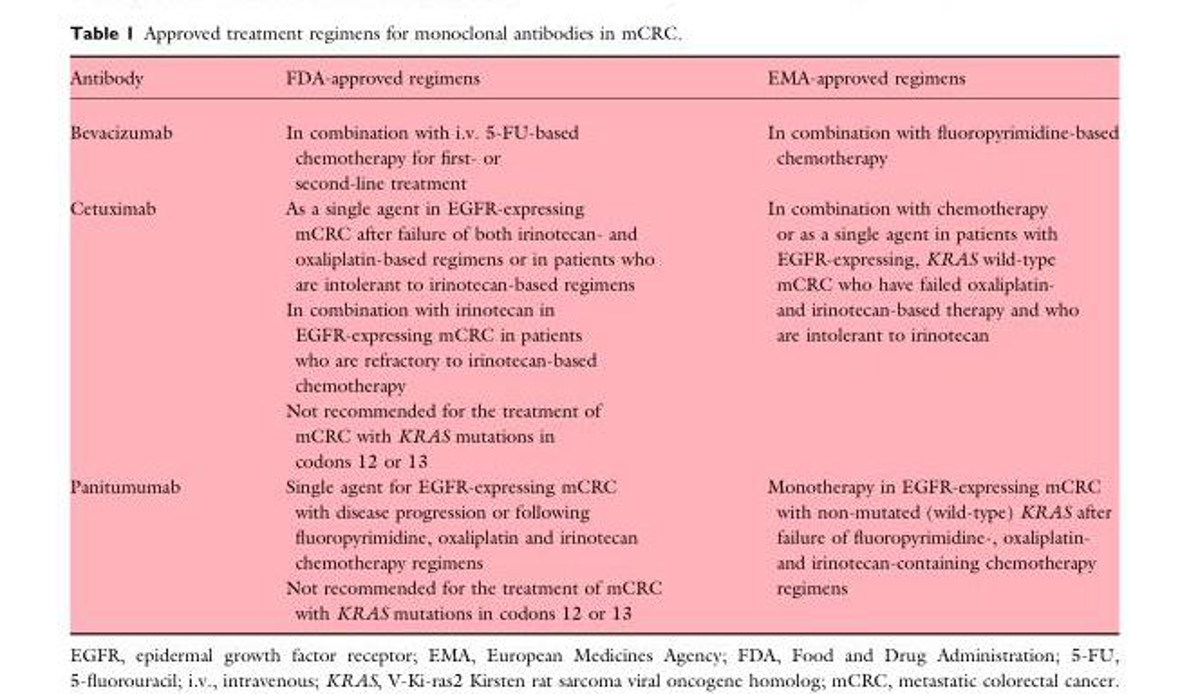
<table><thead><tr><td>Antibody</td><td>FDA-approved regimens</td><td>EMA-approved regimens</td></tr></thead><tbody><tr><td>Bevacizumab</td><td>In combination with i.v. 5-FU-based chemotherapy for first- or second-line treatment</td><td>In combination with fluoropyrimidine-based chemotherapy</td></tr><tr><td>Cetuximab</td><td>As a single agent in EGFR-expressing mCRC after failure of both irinotecan- and oxaliplatin-based regimens or in patients who are intolerant to irinotecan-based regimens In combination with irinotecan in EGFR-expressing mCRC in patients who are refractory to irinotecan-based chemotherapy Not recommended for the treatment of mCRC with KRAS mutations in codons 12 or 13</td><td>In combination with chemotherapy or as a single agent in patients with EGFR-expressing, KRAS wild-type mCRC who have failed oxaliplatin- and irinotecan-based therapy and who are intolerant to irinotecan</td></tr><tr><td>Panitumumab</td><td>Single agent for EGFR-expressing mCRC with disease progression or following fluoropyrimidine, oxaliplatin and irinotecan chemotherapy regimens Not recommended for the treatment of mCRC with KRAS mutations in codons 12 or 13</td><td>Monotherapy in EGFR-expressing mCRC with non-mutated (wild-type) KRAS after failure of fluoropyrimidine-, oxaliplatin- and irinotecan-containing chemotherapy regimens</td></tr></tbody></table>